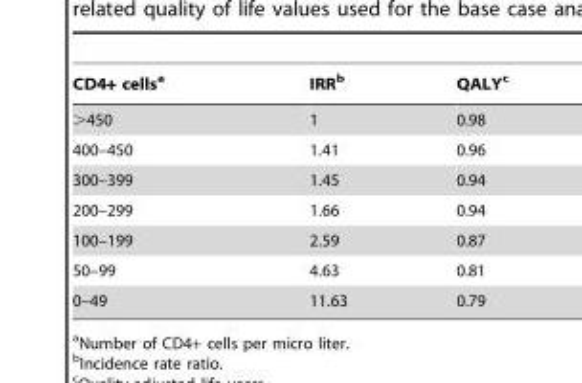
<table><thead><tr><td>CD4+ cells<sup>a</sup></td><td>IRR<sup>b</sup></td><td>QALY<sup>c</sup></td></tr></thead><tbody><tr><td>&gt;450</td><td>1</td><td>0.98</td></tr><tr><td>400–450</td><td>1.41</td><td>0.96</td></tr><tr><td>300–399</td><td>1.45</td><td>0.94</td></tr><tr><td>200–299</td><td>1.66</td><td>0.94</td></tr><tr><td>100–199</td><td>2.59</td><td>0.87</td></tr><tr><td>50–99</td><td>4.63</td><td>0.81</td></tr><tr><td>0–49</td><td>11.63</td><td>0.79</td></tr></tbody></table>